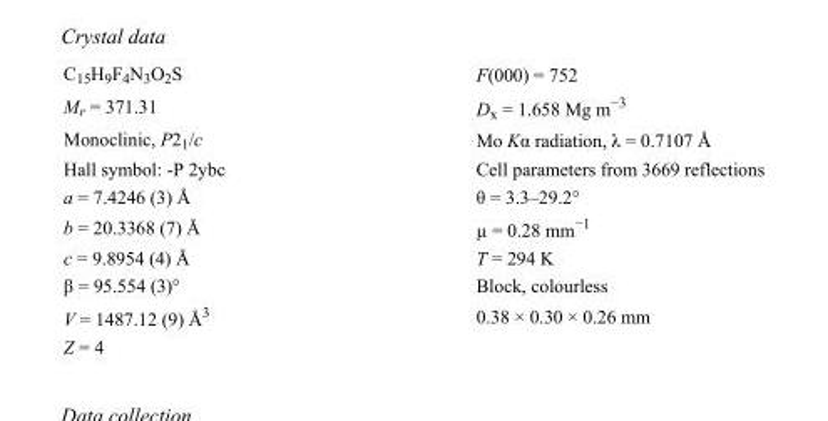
<table><tbody><tr><td>C<sub>15</sub>H<sub>9</sub>F<sub>4</sub>N<sub>3</sub>O<sub>2</sub>S</td><td>F(000) = 752</td></tr><tr><td>M<sub>r</sub> = 371.31</td><td>D<sub>x</sub> = 1.658 Mg m<sup>−3</sup></td></tr><tr><td>Monoclinic, P2<sub>1</sub>/c</td><td>Mo Kα radiation, λ = 0.7107 Å</td></tr><tr><td>Hall symbol: -P 2ybc</td><td>Cell parameters from 3669 reflections</td></tr><tr><td>a = 7.4246 (3) Å</td><td>θ = 3.3–29.2°</td></tr><tr><td>b = 20.3368 (7) Å</td><td>µ = 0.28 mm<sup>−1</sup></td></tr><tr><td>c = 9.8954 (4) Å</td><td>T = 294 K</td></tr><tr><td>β = 95.554 (3)°</td><td>Block, colourless</td></tr><tr><td>V = 1487.12 (9) Å<sup>3</sup></td><td>0.38 × 0.30 × 0.26 mm</td></tr><tr><td>Z = 4</td><td></td></tr></tbody></table>